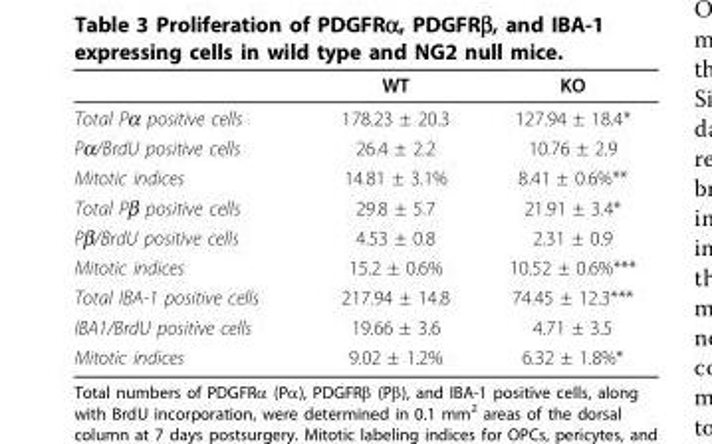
<table><thead><tr><td></td><td>WT</td><td>KO</td></tr></thead><tbody><tr><td>Total Pα positive cells</td><td>178.23 ± 20.3</td><td>127.94 ± 18.4*</td></tr><tr><td>Pα/BrdU positive cells</td><td>26.4 ± 2.2</td><td>10.76 ± 2.9</td></tr><tr><td>Mitotic indices</td><td>14.81 ± 3.1%</td><td>8.41 ± 0.6%**</td></tr><tr><td>Total Pβ positive cells</td><td>29.8 ± 5.7</td><td>21.91 ± 3.4*</td></tr><tr><td>Pβ/BrdU positive cells</td><td>4.53 ± 0.8</td><td>2.31 ± 0.9</td></tr><tr><td>Mitotic indices</td><td>15.2 ± 0.6%</td><td>10.52 ± 0.6%***</td></tr><tr><td>Total IBA-1 positive cells</td><td>217.94 ± 14.8</td><td>74.45 ± 12.3***</td></tr><tr><td>IBA1/BrdU positive cells</td><td>19.66 ± 3.6</td><td>4.71 ± 3.5</td></tr><tr><td>Mitotic indices</td><td>9.02 ± 1.2%</td><td>6.32 ± 1.8%*</td></tr></tbody></table>